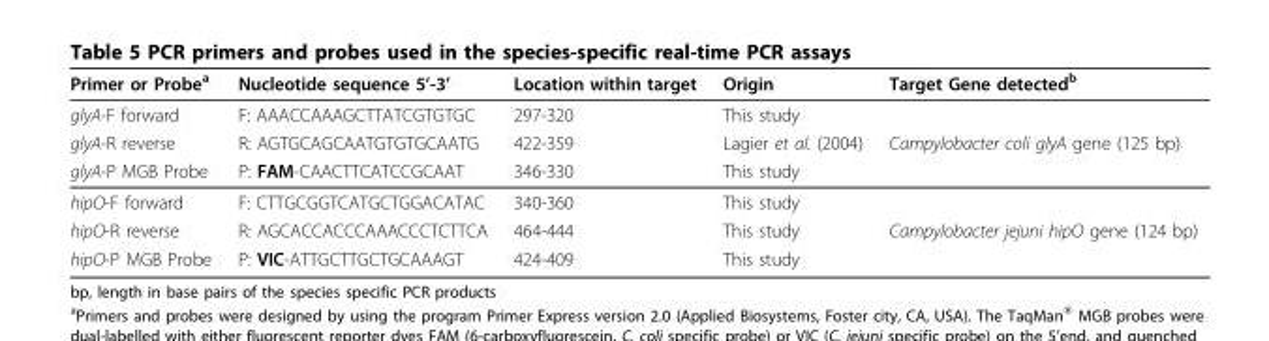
<table><thead><tr><td>Primer or Probe<sup>a</sup></td><td>Nucleotide sequence 5’-3’</td><td>Location within target</td><td>Origin</td><td>Target Gene detected<sup>b</sup></td></tr></thead><tbody><tr><td>glyA-F forward</td><td>F: AAACCAAAGCTTATCGTGTGC</td><td>297-320</td><td>This study</td><td></td></tr><tr><td>glyA-R reverse</td><td>R: AGTGCAGCAATGTGTGCAATG</td><td>422-359</td><td>Lagier et al. (2004)</td><td>Campylobacter coli glyA gene (125 bp)</td></tr><tr><td>glyA-P MGB Probe</td><td>P: FAM-CAACTTCATCCGCAAT</td><td>346-330</td><td>This study</td><td></td></tr><tr><td>hipO-F forward</td><td>F: CTTGCGGTCATGCTGGACATAC</td><td>340-360</td><td>This study</td><td></td></tr><tr><td>hipO-R reverse</td><td>R: AGCACCACCCAAACCCTCTTCA</td><td>464-444</td><td>This study</td><td>Campylobacter jejuni hipO gene (124 bp)</td></tr><tr><td>hipO-P MGB Probe</td><td>P: VIC-ATTGCTTGCTGCAAAGT</td><td>424-409</td><td>This study</td><td></td></tr></tbody></table>